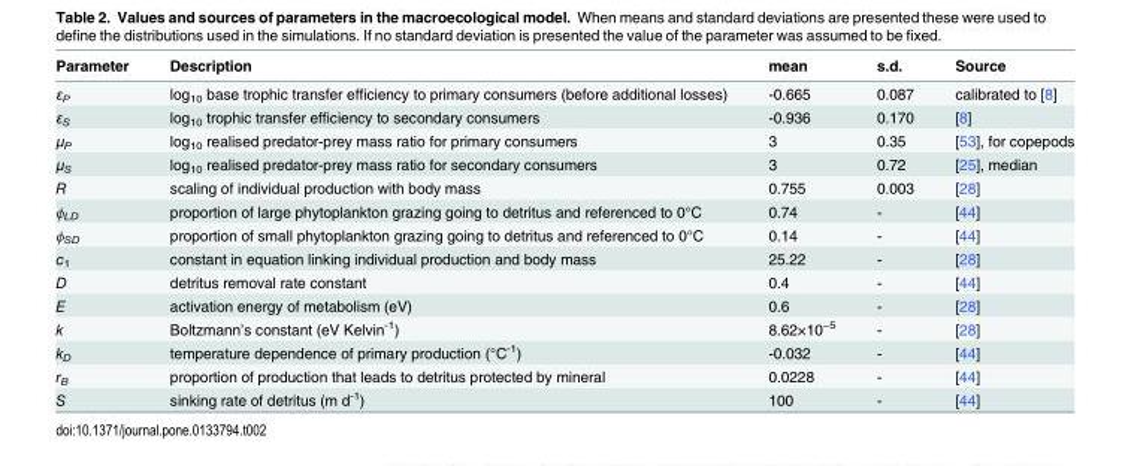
<table><thead><tr><td>Parameter</td><td>Description</td><td>mean</td><td>s.d.</td><td>Source</td></tr></thead><tbody><tr><td>ε<sub>P</sub></td><td>log<sub>10</sub> base trophic transfer efficiency to primary consumers (before additional losses)</td><td>-0.665</td><td>0.087</td><td>calibrated to [8]</td></tr><tr><td>ε<sub>S</sub></td><td>log<sub>10</sub> trophic transfer efficiency to secondary consumers</td><td>-0.936</td><td>0.170</td><td>[8]</td></tr><tr><td>μ<sub>P</sub></td><td>log<sub>10</sub> realised predator-prey mass ratio for primary consumers</td><td>3</td><td>0.35</td><td>[53], for copepods</td></tr><tr><td>μ<sub>S</sub></td><td>log<sub>10</sub> realised predator-prey mass ratio for secondary consumers</td><td>3</td><td>0.72</td><td>[25], median</td></tr><tr><td>R</td><td>scaling of individual production with body mass</td><td>0.755</td><td>0.003</td><td>[28]</td></tr><tr><td>ϕ<sub>LD</sub></td><td>proportion of large phytoplankton grazing going to detritus and referenced to 0°C</td><td>0.74</td><td>-</td><td>[44]</td></tr><tr><td>ϕ<sub>SD</sub></td><td>proportion of small phytoplankton grazing going to detritus and referenced to 0°C</td><td>0.14</td><td>-</td><td>[44]</td></tr><tr><td>c<sub>1</sub></td><td>constant in equation linking individual production and body mass</td><td>25.22</td><td>-</td><td>[28]</td></tr><tr><td>D</td><td>detritus removal rate constant</td><td>0.4</td><td>-</td><td>[44]</td></tr><tr><td>E</td><td>activation energy of metabolism (eV)</td><td>0.6</td><td>-</td><td>[28]</td></tr><tr><td>k</td><td>Boltzmann’s constant (eV Kelvin<sup>-1</sup>)</td><td>8.62×10<sup>−5</sup></td><td>-</td><td>[28]</td></tr><tr><td>k<sub>D</sub></td><td>temperature dependence of primary production (°C<sup>-1</sup>)</td><td>-0.032</td><td>-</td><td>[44]</td></tr><tr><td>r<sub>B</sub></td><td>proportion of production that leads to detritus protected by mineral</td><td>0.0228</td><td>-</td><td>[44]</td></tr><tr><td>S</td><td>sinking rate of detritus (m d<sup>-1</sup>)</td><td>100</td><td>-</td><td>[44]</td></tr></tbody></table>